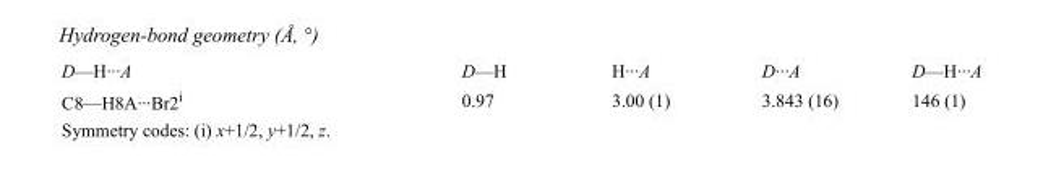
<table><tbody><tr><td>D—H···A</td><td>D—H</td><td>H···A</td><td>D···A</td><td>D—H···A</td></tr><tr><td>C8—H8A···Br2<sup>i</sup></td><td>0.97</td><td>3.00 (1)</td><td>3.843 (16)</td><td>146 (1)</td></tr></tbody></table>